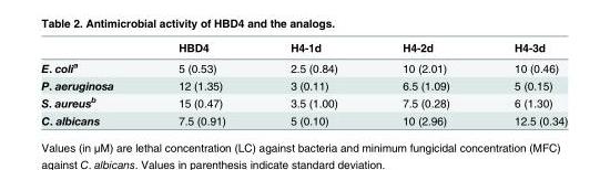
<table><thead><tr><td></td><td>HBD4</td><td>H4-1d</td><td>H4-2d</td><td>H4-3d</td></tr></thead><tbody><tr><td>E. coli<sup>a</sup></td><td>5 (0.53)</td><td>2.5 (0.84)</td><td>10 (2.01)</td><td>10 (0.46)</td></tr><tr><td>P. aeruginosa</td><td>12 (1.35)</td><td>3 (0.11)</td><td>6.5 (1.09)</td><td>5 (0.15)</td></tr><tr><td>S. aureus<sup>b</sup></td><td>15 (0.47)</td><td>3.5 (1.00)</td><td>7.5 (0.28)</td><td>6 (1.30)</td></tr><tr><td>C. albicans</td><td>7.5 (0.91)</td><td>5 (0.10)</td><td>10 (2.96)</td><td>12.5 (0.34)</td></tr></tbody></table>